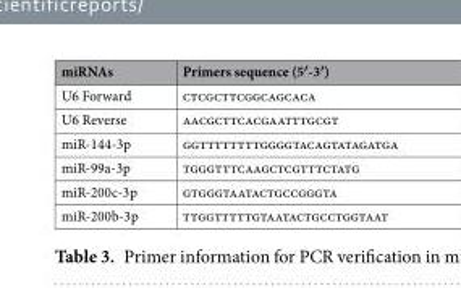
<table><thead><tr><td>miRNAs</td><td>Primers sequence (5′-3′)</td></tr></thead><tbody><tr><td>U6 Forward</td><td>ctcgcttcggcagcaca</td></tr><tr><td>U6 Reverse</td><td>aacgcttcacgaatttgcgt</td></tr><tr><td>miR-144-3p</td><td>ggttttttttggggtacagtatagatga</td></tr><tr><td>miR-99a-3p</td><td>tgggtttcaagctcgtttctatg</td></tr><tr><td>miR-200c-3p</td><td>gtgggtaatactgccgggta</td></tr><tr><td>miR-200b-3p</td><td>ttggtttttgtaatactgcctggtaat</td></tr></tbody></table>